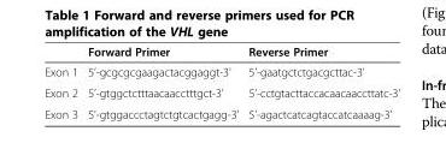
<table><thead><tr><td></td><td>Forward Primer</td><td>Reverse Primer</td></tr></thead><tbody><tr><td>Exon 1</td><td>5’-gcgcgcgaagactacggaggt-3’</td><td>5’-gaatgctctgacgcttac-3’</td></tr><tr><td>Exon 2</td><td>5’-gtggctctttaacaacctttgct-3’</td><td>5’-cctgtacttaccacaacaaccttatc-3’</td></tr><tr><td>Exon 3</td><td>5’-gtggaccctagtctgtcactgagg-3’</td><td>5’-agactcatcagtaccatcaaaag-3’</td></tr></tbody></table>